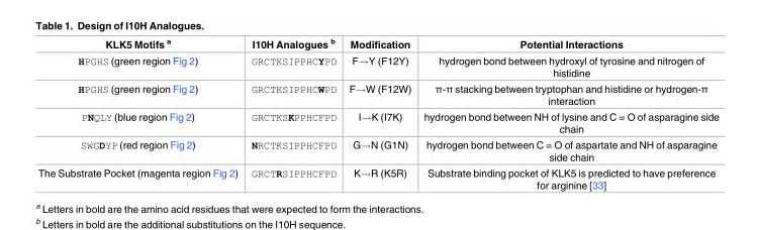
<table><thead><tr><td>KLK5 Motifs <sup>a</sup></td><td>I10H Analogues <sup>b</sup></td><td>Modification</td><td>Potential Interactions</td></tr></thead><tbody><tr><td>HPGHS (green region Fig 2)</td><td>GRCTKSIPPHCYPD</td><td>F→Y (F12Y)</td><td>hydrogen bond between hydroxyl of tyrosine and nitrogen of histidine</td></tr><tr><td>HPGHS (green region Fig 2)</td><td>GRCTKSIPPHCWPD</td><td>F→W (F12W)</td><td>π-π stacking between tryptophan and histidine or hydrogen-π interaction</td></tr><tr><td>PNQLY (blue region Fig 2)</td><td>GRCTKSKPPHCFPD</td><td>I→K (I7K)</td><td>hydrogen bond between NH of lysine and C = O of asparagine side chain</td></tr><tr><td>SWGDYP (red region Fig 2)</td><td>NRCTKSIPPHCFPD</td><td>G→N (G1N)</td><td>hydrogen bond between C = O of aspartate and NH of asparagine side chain</td></tr><tr><td>The Substrate Pocket (magenta region Fig 2)</td><td>GRCTRSIPPHCFPD</td><td>K→R (K5R)</td><td>Substrate binding pocket of KLK5 is predicted to have preference for arginine [33]</td></tr></tbody></table>